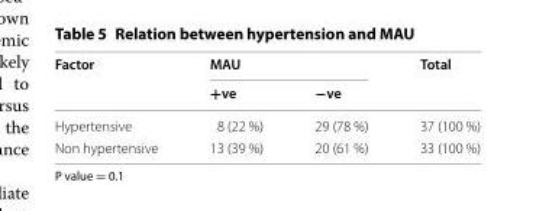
<table><thead><tr><td rowspan="2">Factor</td><td colspan="2">MAU</td><td rowspan="2">Total</td></tr><tr><td>+ve</td><td>−ve</td></tr></thead><tbody><tr><td>Hypertensive</td><td>8 (22 %)</td><td>29 (78 %)</td><td>37 (100 %)</td></tr><tr><td>Non hypertensive</td><td>13 (39 %)</td><td>20 (61 %)</td><td>33 (100 %)</td></tr></tbody></table>